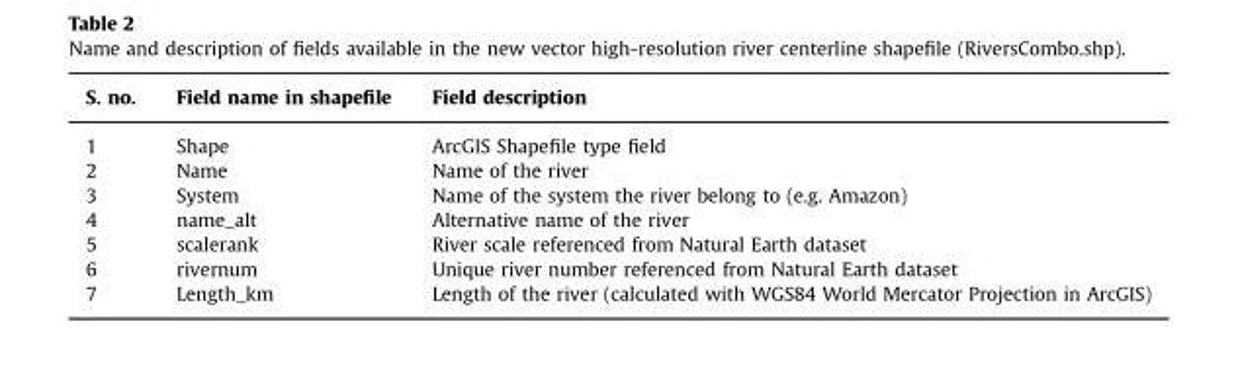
<table><thead><tr><td>S. no.</td><td>Field name in shapefile</td><td>Field description</td></tr></thead><tbody><tr><td>1</td><td>Shape</td><td>ArcGIS Shapefile type field</td></tr><tr><td>2</td><td>Name</td><td>Name of the river</td></tr><tr><td>3</td><td>System</td><td>Name of the system the river belong to (e.g. Amazon)</td></tr><tr><td>4</td><td>name_alt</td><td>Alternative name of the river</td></tr><tr><td>5</td><td>scalerank</td><td>River scale referenced from Natural Earth dataset</td></tr><tr><td>6</td><td>rivernum</td><td>Unique river number referenced from Natural Earth dataset</td></tr><tr><td>7</td><td>Length_km</td><td>Length of the river (calculated with WGS84 World Mercator Projection in ArcGIS)</td></tr></tbody></table>